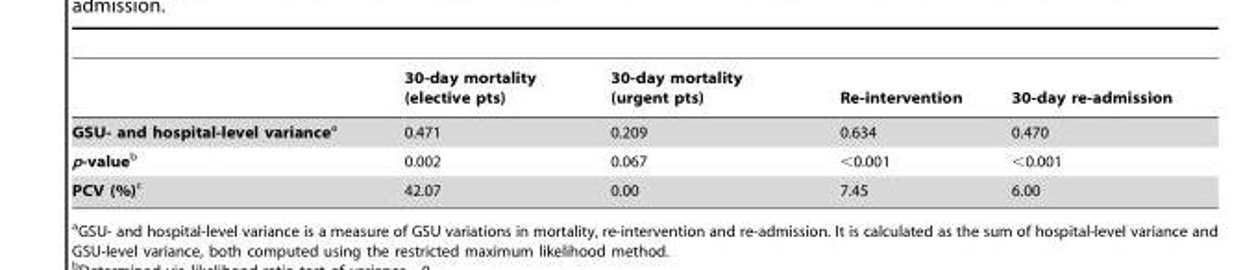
<table><thead><tr><td></td><td>30-day mortality (elective pts)</td><td>30-day mortality (urgent pts)</td><td>Re-intervention</td><td>30-day re-admission</td></tr></thead><tbody><tr><td>GSU- and hospital-level variancea</td><td>0.471</td><td>0.209</td><td>0.634</td><td>0.470</td></tr><tr><td>p-valueb</td><td>0.002</td><td>0.067</td><td>&lt;0.001</td><td>&lt;0.001</td></tr><tr><td>PCV (%)c</td><td>42.07</td><td>0.00</td><td>7.45</td><td>6.00</td></tr></tbody></table>